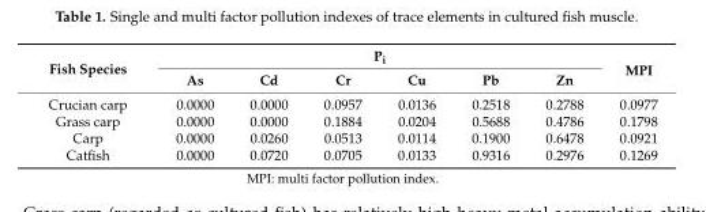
<table><thead><tr><td rowspan="2">Fish Species</td><td colspan="6">P<sub>i</sub></td><td rowspan="2">MPI</td></tr><tr><td>As</td><td>Cd</td><td>Cr</td><td>Cu</td><td>Pb</td><td>Zn</td></tr></thead><tbody><tr><td>Crucian carp</td><td>0.0000</td><td>0.0000</td><td>0.0957</td><td>0.0136</td><td>0.2518</td><td>0.2788</td><td>0.0977</td></tr><tr><td>Grass carp</td><td>0.0000</td><td>0.0000</td><td>0.1884</td><td>0.0204</td><td>0.5688</td><td>0.4786</td><td>0.1798</td></tr><tr><td>Carp</td><td>0.0000</td><td>0.0260</td><td>0.0513</td><td>0.0114</td><td>0.1900</td><td>0.6478</td><td>0.0921</td></tr><tr><td>Catfish</td><td>0.0000</td><td>0.0720</td><td>0.0705</td><td>0.0133</td><td>0.9316</td><td>0.2976</td><td>0.1269</td></tr></tbody></table>